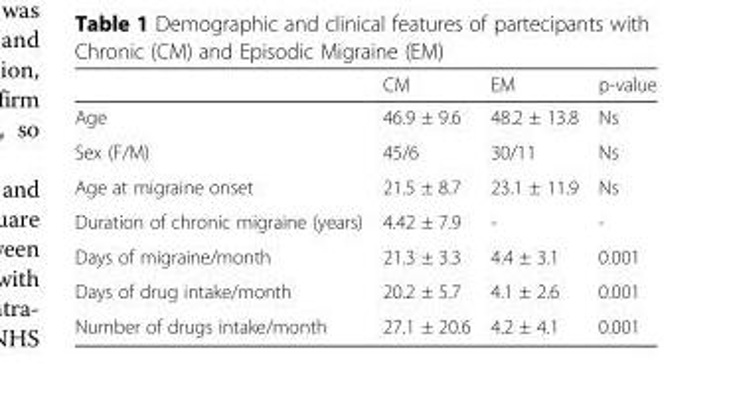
<table><thead><tr><td></td><td>CM</td><td>EM</td><td>p-value</td></tr></thead><tbody><tr><td>Age</td><td>46.9 ± 9.6</td><td>48.2 ± 13.8</td><td>Ns</td></tr><tr><td>Sex (F/M)</td><td>45/6</td><td>30/11</td><td>Ns</td></tr><tr><td>Age at migraine onset</td><td>21.5 ± 8.7</td><td>23.1 ± 11.9</td><td>Ns</td></tr><tr><td>Duration of chronic migraine (years)</td><td>4.42 ± 7.9</td><td>-</td><td>-</td></tr><tr><td>Days of migraine/month</td><td>21.3 ± 3.3</td><td>4.4 ± 3.1</td><td>0.001</td></tr><tr><td>Days of drug intake/month</td><td>20.2 ± 5.7</td><td>4.1 ± 2.6</td><td>0.001</td></tr><tr><td>Number of drugs intake/month</td><td>27.1 ± 20.6</td><td>4.2 ± 4.1</td><td>0.001</td></tr></tbody></table>